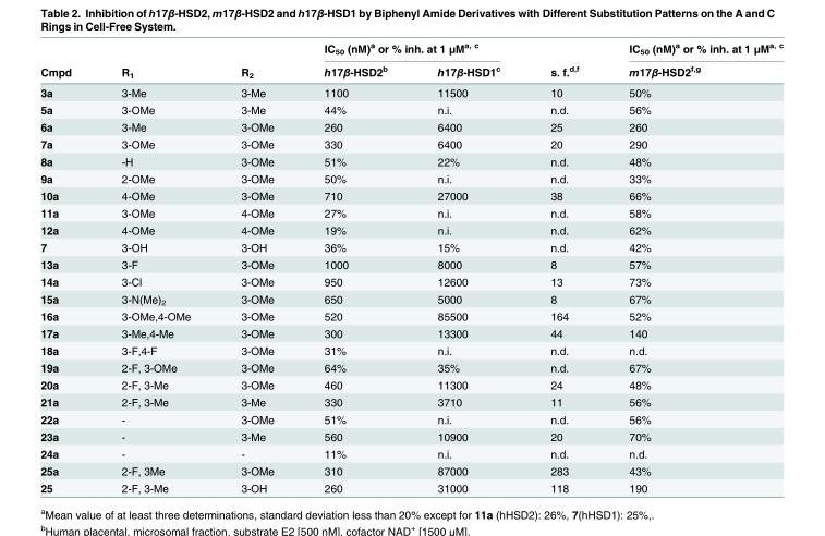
<table><thead><tr><td rowspan="2">Cmpd</td><td rowspan="2">R<sub>1</sub></td><td rowspan="2">R<sub>2</sub></td><td colspan="2">IC<sub>50</sub> (nM)<sup>a</sup> or % inh. at 1 μM<sup>a, c</sup></td><td rowspan="2">s. f.<sup>d,f</sup></td><td rowspan="2">IC<sub>50</sub> (nM)<sup>a</sup> or % inh. at 1 μM<sup>a, c</sup> m17β-HSD2<sup>f,g</sup></td></tr><tr><td>h17β-HSD2<sup>b</sup></td><td>h17β-HSD1<sup>c</sup></td></tr></thead><tbody><tr><td>3a</td><td>3-Me</td><td>3-Me</td><td>1100</td><td>11500</td><td>10</td><td>50%</td></tr><tr><td>5a</td><td>3-OMe</td><td>3-Me</td><td>44%</td><td>n.i.</td><td>n.d.</td><td>56%</td></tr><tr><td>6a</td><td>3-Me</td><td>3-OMe</td><td>260</td><td>6400</td><td>25</td><td>260</td></tr><tr><td>7a</td><td>3-OMe</td><td>3-OMe</td><td>330</td><td>6400</td><td>20</td><td>290</td></tr><tr><td>8a</td><td>-H</td><td>3-OMe</td><td>51%</td><td>22%</td><td>n.d.</td><td>48%</td></tr><tr><td>9a</td><td>2-OMe</td><td>3-OMe</td><td>50%</td><td>n.i.</td><td>n.d.</td><td>33%</td></tr><tr><td>10a</td><td>4-OMe</td><td>3-OMe</td><td>710</td><td>27000</td><td>38</td><td>66%</td></tr><tr><td>11a</td><td>3-OMe</td><td>4-OMe</td><td>27%</td><td>n.i.</td><td>n.d.</td><td>58%</td></tr><tr><td>12a</td><td>4-OMe</td><td>4-OMe</td><td>19%</td><td>n.i.</td><td>n.d.</td><td>62%</td></tr><tr><td>7</td><td>3-OH</td><td>3-OH</td><td>36%</td><td>15%</td><td>n.d.</td><td>42%</td></tr><tr><td>13a</td><td>3-F</td><td>3-OMe</td><td>1000</td><td>8000</td><td>8</td><td>57%</td></tr><tr><td>14a</td><td>3-Cl</td><td>3-OMe</td><td>950</td><td>12600</td><td>13</td><td>73%</td></tr><tr><td>15a</td><td>3-N(Me)<sub>2</sub></td><td>3-OMe</td><td>650</td><td>5000</td><td>8</td><td>67%</td></tr><tr><td>16a</td><td>3-OMe,4-OMe</td><td>3-OMe</td><td>520</td><td>85500</td><td>164</td><td>52%</td></tr><tr><td>17a</td><td>3-Me,4-Me</td><td>3-OMe</td><td>300</td><td>13300</td><td>44</td><td>140</td></tr><tr><td>18a</td><td>3-F,4-F</td><td>3-OMe</td><td>31%</td><td>n.i.</td><td>n.d.</td><td>n.d.</td></tr><tr><td>19a</td><td>2-F, 3-OMe</td><td>3-OMe</td><td>64%</td><td>35%</td><td>n.d.</td><td>67%</td></tr><tr><td>20a</td><td>2-F, 3-Me</td><td>3-OMe</td><td>460</td><td>11300</td><td>24</td><td>48%</td></tr><tr><td>21a</td><td>2-F, 3-Me</td><td>3-Me</td><td>330</td><td>3710</td><td>11</td><td>56%</td></tr><tr><td>22a</td><td>-</td><td>3-OMe</td><td>51%</td><td>n.i.</td><td>n.d.</td><td>56%</td></tr><tr><td>23a</td><td>-</td><td>3-Me</td><td>560</td><td>10900</td><td>20</td><td>70%</td></tr><tr><td>24a</td><td>-</td><td>-</td><td>11%</td><td>n.i.</td><td>n.d.</td><td>n.d.</td></tr><tr><td>25a</td><td>2-F, 3Me</td><td>3-OMe</td><td>310</td><td>87000</td><td>283</td><td>43%</td></tr><tr><td>25</td><td>2-F, 3-Me</td><td>3-OH</td><td>260</td><td>31000</td><td>118</td><td>190</td></tr></tbody></table>